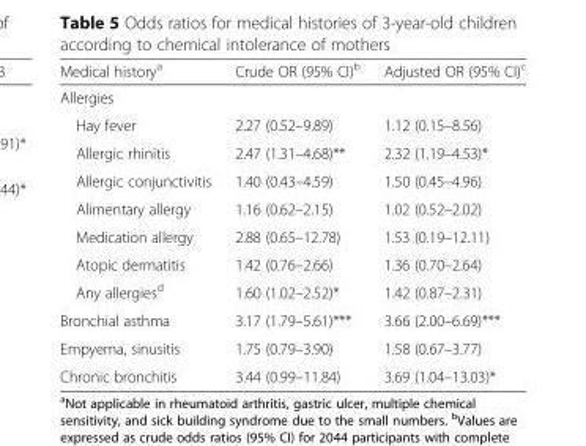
<table><thead><tr><td>Medical history<sup>a</sup></td><td>Crude OR (95% CI)<sup>b</sup></td><td>Adjusted OR (95% CI)<sup>c</sup></td></tr></thead><tbody><tr><td colspan="3">Allergies</td></tr><tr><td>Hay fever</td><td>2.27 (0.52–9.89)</td><td>1.12 (0.15–8.56)</td></tr><tr><td>Allergic rhinitis</td><td>2.47 (1.31–4.68)**</td><td>2.32 (1.19–4.53)*</td></tr><tr><td>Allergic conjunctivitis</td><td>1.40 (0.43–4.59)</td><td>1.50 (0.45–4.96)</td></tr><tr><td>Alimentary allergy</td><td>1.16 (0.62–2.15)</td><td>1.02 (0.52–2.02)</td></tr><tr><td>Medication allergy</td><td>2.88 (0.65–12.78)</td><td>1.53 (0.19–12.11)</td></tr><tr><td>Atopic dermatitis</td><td>1.42 (0.76–2.66)</td><td>1.36 (0.70–2.64)</td></tr><tr><td>Any allergies<sup>d</sup></td><td>1.60 (1.02–2.52)*</td><td>1.42 (0.87–2.31)</td></tr><tr><td>Bronchial asthma</td><td>3.17 (1.79–5.61)***</td><td>3.66 (2.00–6.69)***</td></tr><tr><td>Empyema, sinusitis</td><td>1.75 (0.79–3.90)</td><td>1.58 (0.67–3.77)</td></tr><tr><td>Chronic bronchitis</td><td>3.44 (0.99–11.84)</td><td>3.69 (1.04–13.03)*</td></tr></tbody></table>